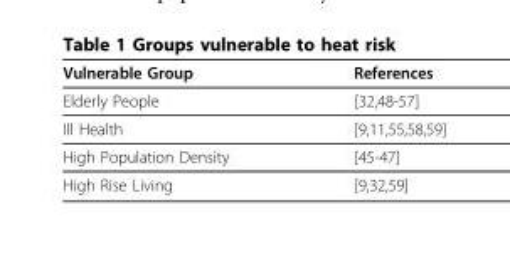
<table><thead><tr><td>Vulnerable Group</td><td>References</td></tr></thead><tbody><tr><td>Elderly People</td><td>[32,48-57]</td></tr><tr><td>Ill Health</td><td>[9,11,55,58,59]</td></tr><tr><td>High Population Density</td><td>[45-47]</td></tr><tr><td>High Rise Living</td><td>[9,32,59]</td></tr></tbody></table>